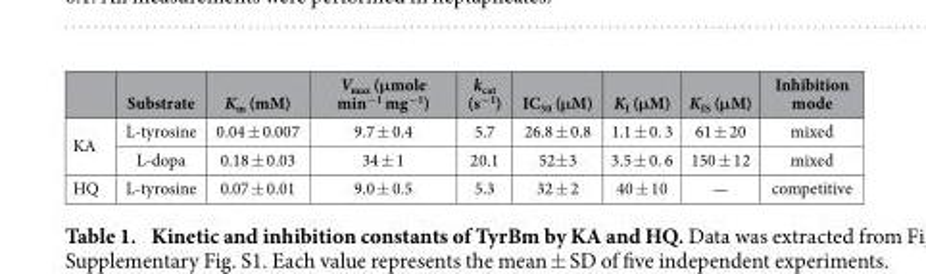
<table><thead><tr><td></td><td>Substrate</td><td>K<sub>m</sub> (mM)</td><td>V<sub>max</sub> (μmole min<sup>−1</sup> mg<sup>−1</sup>)</td><td>k<sub>cat</sub> (s<sup>−1</sup>)</td><td>IC<sub>50</sub> (μM)</td><td>K<sub>I</sub> (μM)</td><td>K<sub>IS</sub> (μM)</td><td>Inhibition mode</td></tr></thead><tbody><tr><td rowspan="2">KA</td><td>L-tyrosine</td><td>0.04 ± 0.007</td><td>9.7 ± 0.4</td><td>5.7</td><td>26.8 ± 0.8</td><td>1.1 ± 0. 3</td><td>61 ± 20</td><td>mixed</td></tr><tr><td>L-dopa</td><td>0.18 ± 0.03</td><td>34 ± 1</td><td>20.1</td><td>52± 3</td><td>3.5 ± 0. 6</td><td>150 ± 12</td><td>mixed</td></tr><tr><td>HQ</td><td>L-tyrosine</td><td>0.07 ± 0.01</td><td>9.0 ± 0.5</td><td>5.3</td><td>32 ± 2</td><td>40 ± 10</td><td>—</td><td>competitive</td></tr></tbody></table>